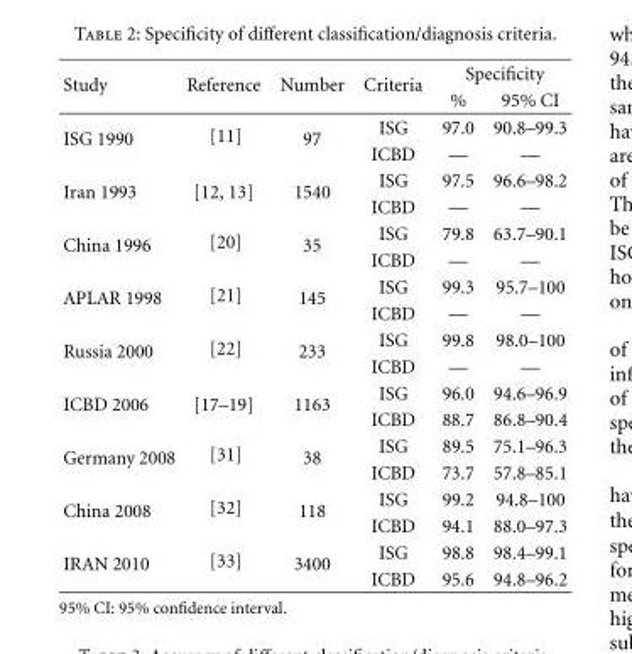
<table><thead><tr><td rowspan="2">Study</td><td rowspan="2">Reference</td><td rowspan="2">Number</td><td rowspan="2">Criteria</td><td colspan="2">Specificity</td></tr><tr><td>%</td><td>95% CI</td></tr></thead><tbody><tr><td rowspan="2">ISG 1990</td><td rowspan="2">[11]</td><td rowspan="2">97</td><td>ISG</td><td>97.0</td><td>90.8–99.3</td></tr><tr><td>ICBD</td><td>—</td><td>—</td></tr><tr><td rowspan="2">Iran 1993</td><td rowspan="2">[12, 13]</td><td rowspan="2">1540</td><td>ISG</td><td>97.5</td><td>96.6–98.2</td></tr><tr><td>ICBD</td><td>—</td><td>—</td></tr><tr><td rowspan="2">China 1996</td><td rowspan="2">[20]</td><td rowspan="2">35</td><td>ISG</td><td>79.8</td><td>63.7–90.1</td></tr><tr><td>ICBD</td><td>—</td><td>—</td></tr><tr><td rowspan="2">APLAR 1998</td><td rowspan="2">[21]</td><td rowspan="2">145</td><td>ISG</td><td>99.3</td><td>95.7–100</td></tr><tr><td>ICBD</td><td>—</td><td>—</td></tr><tr><td rowspan="2">Russia 2000</td><td rowspan="2">[22]</td><td rowspan="2">233</td><td>ISG</td><td>99.8</td><td>98.0–100</td></tr><tr><td>ICBD</td><td>—</td><td>—</td></tr><tr><td rowspan="2">ICBD 2006</td><td rowspan="2">[17–19]</td><td rowspan="2">1163</td><td>ISG</td><td>96.0</td><td>94.6–96.9</td></tr><tr><td>ICBD</td><td>88.7</td><td>86.8–90.4</td></tr><tr><td rowspan="2">Germany 2008</td><td rowspan="2">[31]</td><td rowspan="2">38</td><td>ISG</td><td>89.5</td><td>75.1–96.3</td></tr><tr><td>ICBD</td><td>73.7</td><td>57.8–85.1</td></tr><tr><td rowspan="2">China 2008</td><td rowspan="2">[32]</td><td rowspan="2">118</td><td>ISG</td><td>99.2</td><td>94.8–100</td></tr><tr><td>ICBD</td><td>94.1</td><td>88.0–97.3</td></tr><tr><td rowspan="2">IRAN 2010</td><td rowspan="2">[33]</td><td rowspan="2">3400</td><td>ISG</td><td>98.8</td><td>98.4–99.1</td></tr><tr><td>ICBD</td><td>95.6</td><td>94.8–96.2</td></tr></tbody></table>